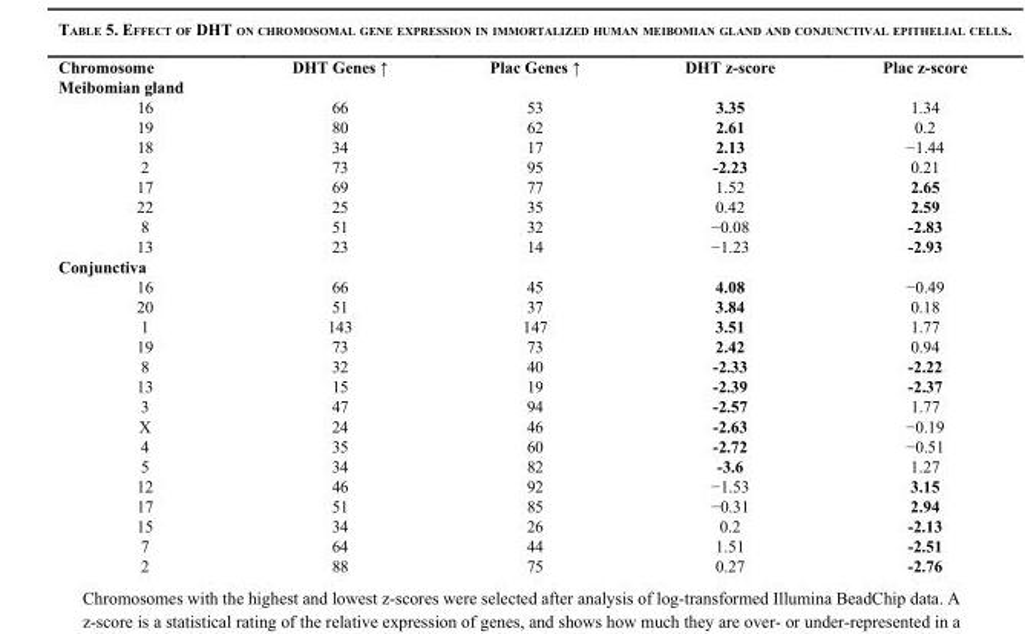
<table><thead><tr><td>Chromosome</td><td>DHT Genes ↑</td><td>Plac Genes ↑</td><td>DHT z-score</td><td>Plac z-score</td></tr></thead><tbody><tr><td colspan="5">Meibomian gland</td></tr><tr><td>16</td><td>66</td><td>53</td><td>3.35</td><td>1.34</td></tr><tr><td>19</td><td>80</td><td>62</td><td>2.61</td><td>0.2</td></tr><tr><td>18</td><td>34</td><td>17</td><td>2.13</td><td>−1.44</td></tr><tr><td>2</td><td>73</td><td>95</td><td>-2.23</td><td>0.21</td></tr><tr><td>17</td><td>69</td><td>77</td><td>1.52</td><td>2.65</td></tr><tr><td>22</td><td>25</td><td>35</td><td>0.42</td><td>2.59</td></tr><tr><td>8</td><td>51</td><td>32</td><td>−0.08</td><td>-2.83</td></tr><tr><td>13</td><td>23</td><td>14</td><td>−1.23</td><td>-2.93</td></tr><tr><td colspan="5">Conjunctiva</td></tr><tr><td>16</td><td>66</td><td>45</td><td>4.08</td><td>−0.49</td></tr><tr><td>20</td><td>51</td><td>37</td><td>3.84</td><td>0.18</td></tr><tr><td>1</td><td>143</td><td>147</td><td>3.51</td><td>1.77</td></tr><tr><td>19</td><td>73</td><td>73</td><td>2.42</td><td>0.94</td></tr><tr><td>8</td><td>32</td><td>40</td><td>-2.33</td><td>-2.22</td></tr><tr><td>13</td><td>15</td><td>19</td><td>-2.39</td><td>-2.37</td></tr><tr><td>3</td><td>47</td><td>94</td><td>-2.57</td><td>1.77</td></tr><tr><td>X</td><td>24</td><td>46</td><td>-2.63</td><td>−0.19</td></tr><tr><td>4</td><td>35</td><td>60</td><td>-2.72</td><td>−0.51</td></tr><tr><td>5</td><td>34</td><td>82</td><td>-3.6</td><td>1.27</td></tr><tr><td>12</td><td>46</td><td>92</td><td>−1.53</td><td>3.15</td></tr><tr><td>17</td><td>51</td><td>85</td><td>−0.31</td><td>2.94</td></tr><tr><td>15</td><td>34</td><td>26</td><td>0.2</td><td>-2.13</td></tr><tr><td>7</td><td>64</td><td>44</td><td>1.51</td><td>-2.51</td></tr><tr><td>2</td><td>88</td><td>75</td><td>0.27</td><td>-2.76</td></tr></tbody></table>